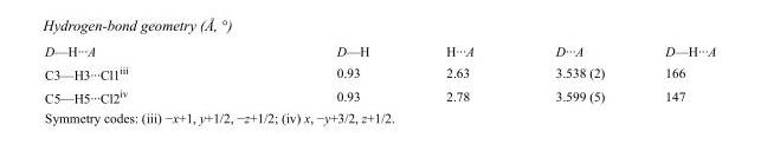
<table><tbody><tr><td>D—H···A</td><td>D—H</td><td>H···A</td><td>D···A</td><td>D—H···A</td></tr><tr><td>C3—H3···Cl1<sup>iii</sup></td><td>0.93</td><td>2.63</td><td>3.538 (2)</td><td>166</td></tr><tr><td>C5—H5···Cl2<sup>iv</sup></td><td>0.93</td><td>2.78</td><td>3.599 (5)</td><td>147</td></tr></tbody></table>